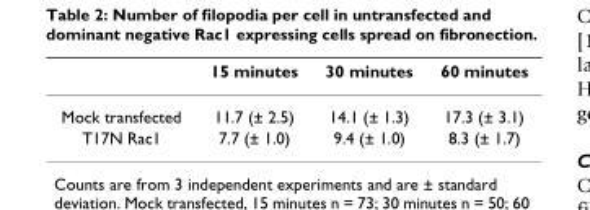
<table><thead><tr><td></td><td>15 minutes</td><td>30 minutes</td><td>60 minutes</td></tr></thead><tbody><tr><td>Mock transfected</td><td>11.7 (± 2.5)</td><td>14.1 (± 1.3)</td><td>17.3 (± 3.1)</td></tr><tr><td>T17N Rac1</td><td>7.7 (± 1.0)</td><td>9.4 (± 1.0)</td><td>8.3 (± 1.7)</td></tr></tbody></table>